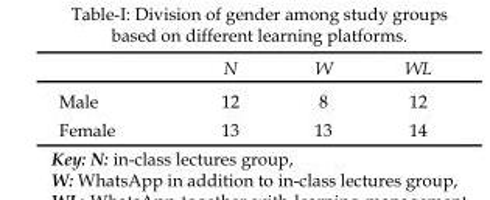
<table><thead><tr><td></td><td>N</td><td>W</td><td>WL</td></tr></thead><tbody><tr><td>Male</td><td>12</td><td>8</td><td>12</td></tr><tr><td>Female</td><td>13</td><td>13</td><td>14</td></tr></tbody></table>